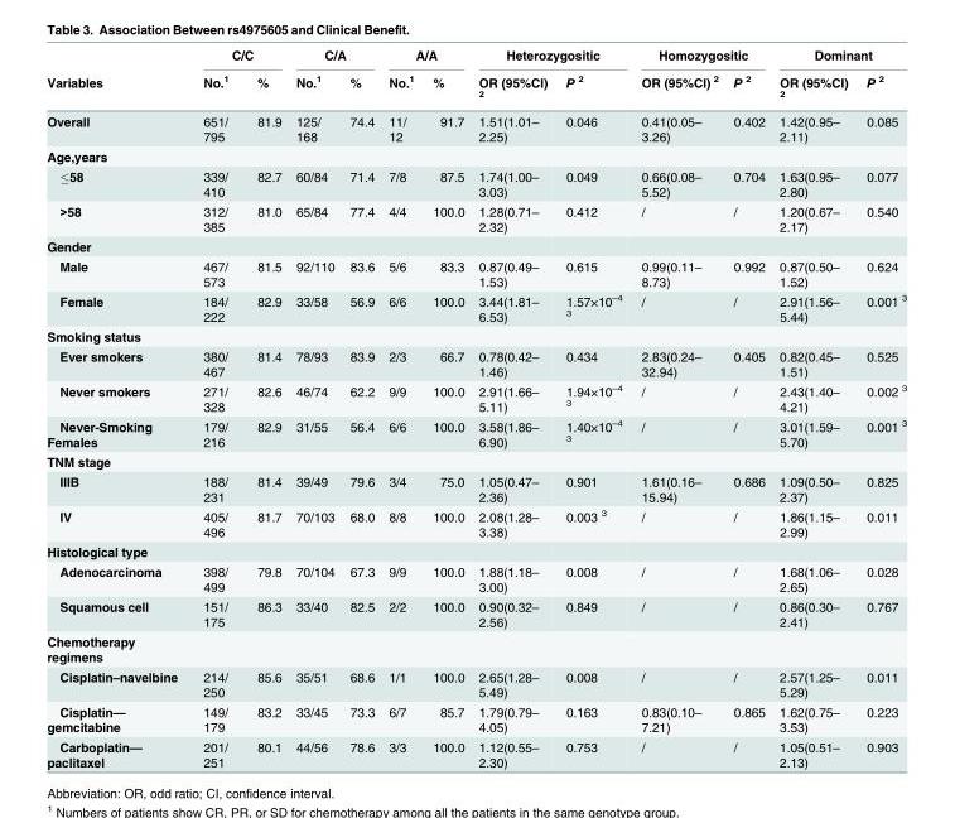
<table><thead><tr><td rowspan="2">Variables</td><td colspan="2">C/C</td><td colspan="2">C/A</td><td colspan="2">A/A</td><td colspan="2">Heterozygositic</td><td colspan="2">Homozygositic</td><td colspan="2">Dominant</td></tr><tr><td>No.<sup>1</sup></td><td>%</td><td>No.<sup>1</sup></td><td>%</td><td>No.<sup>1</sup></td><td>%</td><td>OR (95%CI) <sup>2</sup></td><td>P <sup>2</sup></td><td>OR (95%CI) <sup>2</sup></td><td>P <sup>2</sup></td><td>OR (95%CI) <sup>2</sup></td><td>P <sup>2</sup></td></tr></thead><tbody><tr><td>Overall</td><td>651/ 795</td><td>81.9</td><td>125/ 168</td><td>74.4</td><td>11/ 12</td><td>91.7</td><td>1.51(1.01– 2.25)</td><td>0.046</td><td>0.41(0.05– 3.26)</td><td>0.402</td><td>1.42(0.95– 2.11)</td><td>0.085</td></tr><tr><td colspan="13">Age,years</td></tr><tr><td>≤58</td><td>339/ 410</td><td>82.7</td><td>60/84</td><td>71.4</td><td>7/8</td><td>87.5</td><td>1.74(1.00– 3.03)</td><td>0.049</td><td>0.66(0.08– 5.52)</td><td>0.704</td><td>1.63(0.95– 2.80)</td><td>0.077</td></tr><tr><td>&gt;58</td><td>312/ 385</td><td>81.0</td><td>65/84</td><td>77.4</td><td>4/4</td><td>100.0</td><td>1.28(0.71– 2.32)</td><td>0.412</td><td>/</td><td>/</td><td>1.20(0.67– 2.17)</td><td>0.540</td></tr><tr><td colspan="13">Gender</td></tr><tr><td>Male</td><td>467/ 573</td><td>81.5</td><td>92/110</td><td>83.6</td><td>5/6</td><td>83.3</td><td>0.87(0.49– 1.53)</td><td>0.615</td><td>0.99(0.11– 8.73)</td><td>0.992</td><td>0.87(0.50– 1.52)</td><td>0.624</td></tr><tr><td>Female</td><td>184/ 222</td><td>82.9</td><td>33/58</td><td>56.9</td><td>6/6</td><td>100.0</td><td>3.44(1.81– 6.53)</td><td>1.57×10<sup>–4 3</sup></td><td>/</td><td>/</td><td>2.91(1.56– 5.44)</td><td>0.001 <sup>3</sup></td></tr><tr><td colspan="13">Smoking status</td></tr><tr><td>Ever smokers</td><td>380/ 467</td><td>81.4</td><td>78/93</td><td>83.9</td><td>2/3</td><td>66.7</td><td>0.78(0.42– 1.46)</td><td>0.434</td><td>2.83(0.24– 32.94)</td><td>0.405</td><td>0.82(0.45– 1.51)</td><td>0.525</td></tr><tr><td>Never smokers</td><td>271/ 328</td><td>82.6</td><td>46/74</td><td>62.2</td><td>9/9</td><td>100.0</td><td>2.91(1.66– 5.11)</td><td>1.94×10<sup>–4 3</sup></td><td>/</td><td>/</td><td>2.43(1.40– 4.21)</td><td>0.002 <sup>3</sup></td></tr><tr><td>Never-Smoking Females</td><td>179/ 216</td><td>82.9</td><td>31/55</td><td>56.4</td><td>6/6</td><td>100.0</td><td>3.58(1.86– 6.90)</td><td>1.40×10<sup>–4 3</sup></td><td>/</td><td>/</td><td>3.01(1.59– 5.70)</td><td>0.001 <sup>3</sup></td></tr><tr><td colspan="13">TNM stage</td></tr><tr><td>IIIB</td><td>188/ 231</td><td>81.4</td><td>39/49</td><td>79.6</td><td>3/4</td><td>75.0</td><td>1.05(0.47– 2.36)</td><td>0.901</td><td>1.61(0.16– 15.94)</td><td>0.686</td><td>1.09(0.50– 2.37)</td><td>0.825</td></tr><tr><td>IV</td><td>405/ 496</td><td>81.7</td><td>70/103</td><td>68.0</td><td>8/8</td><td>100.0</td><td>2.08(1.28– 3.38)</td><td>0.003 <sup>3</sup></td><td>/</td><td>/</td><td>1.86(1.15– 2.99)</td><td>0.011</td></tr><tr><td colspan="13">Histological type</td></tr><tr><td>Adenocarcinoma</td><td>398/ 499</td><td>79.8</td><td>70/104</td><td>67.3</td><td>9/9</td><td>100.0</td><td>1.88(1.18– 3.00)</td><td>0.008</td><td>/</td><td>/</td><td>1.68(1.06– 2.65)</td><td>0.028</td></tr><tr><td>Squamous cell</td><td>151/ 175</td><td>86.3</td><td>33/40</td><td>82.5</td><td>2/2</td><td>100.0</td><td>0.90(0.32– 2.56)</td><td>0.849</td><td>/</td><td>/</td><td>0.86(0.30– 2.41)</td><td>0.767</td></tr><tr><td colspan="13">Chemotherapy regimens</td></tr><tr><td>Cisplatin–navelbine</td><td>214/ 250</td><td>85.6</td><td>35/51</td><td>68.6</td><td>1/1</td><td>100.0</td><td>2.65(1.28– 5.49)</td><td>0.008</td><td>/</td><td>/</td><td>2.57(1.25– 5.29)</td><td>0.011</td></tr><tr><td>Cisplatin— gemcitabine</td><td>149/ 179</td><td>83.2</td><td>33/45</td><td>73.3</td><td>6/7</td><td>85.7</td><td>1.79(0.79– 4.05)</td><td>0.163</td><td>0.83(0.10– 7.21)</td><td>0.865</td><td>1.62(0.75– 3.53)</td><td>0.223</td></tr><tr><td>Carboplatin— paclitaxel</td><td>201/ 251</td><td>80.1</td><td>44/56</td><td>78.6</td><td>3/3</td><td>100.0</td><td>1.12(0.55– 2.30)</td><td>0.753</td><td>/</td><td>/</td><td>1.05(0.51– 2.13)</td><td>0.903</td></tr></tbody></table>